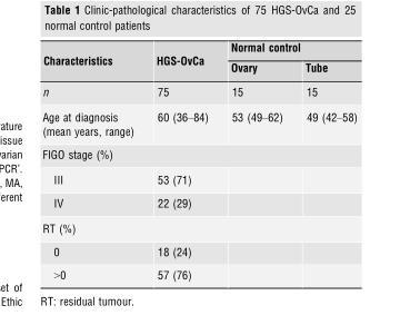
<table><thead><tr><td rowspan="2">Characteristics</td><td rowspan="2">HGS-OvCa</td><td colspan="2">Normal control</td></tr><tr><td>Ovary</td><td>Tube</td></tr></thead><tbody><tr><td>n</td><td>75</td><td>15</td><td>15</td></tr><tr><td>Age at diagnosis (mean years, range)</td><td>60 (36–84)</td><td>53 (49–62)</td><td>49 (42–58)</td></tr><tr><td colspan="4">FIGO stage (%)</td></tr><tr><td>III</td><td>53 (71)</td><td></td><td></td></tr><tr><td>IV</td><td>22 (29)</td><td></td><td></td></tr><tr><td colspan="4">RT (%)</td></tr><tr><td>0</td><td>18 (24)</td><td></td><td></td></tr><tr><td>&gt;0</td><td>57 (76)</td><td></td><td></td></tr></tbody></table>